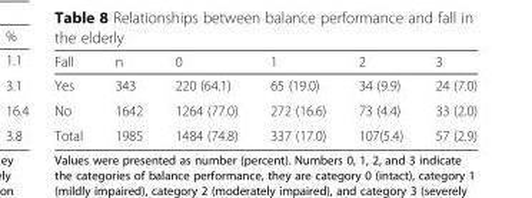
<table><thead><tr><td>Fall</td><td>n</td><td>0</td><td>1</td><td>2</td><td>3</td></tr></thead><tbody><tr><td>Yes</td><td>343</td><td>220 (64.1)</td><td>65 (19.0)</td><td>34 (9.9)</td><td>24 (7.0)</td></tr><tr><td>No</td><td>1642</td><td>1264 (77.0)</td><td>272 (16.6)</td><td>73 (4.4)</td><td>33 (2.0)</td></tr><tr><td>Total</td><td>1985</td><td>1484 (74.8)</td><td>337 (17.0)</td><td>107(5.4)</td><td>57 (2.9)</td></tr></tbody></table>